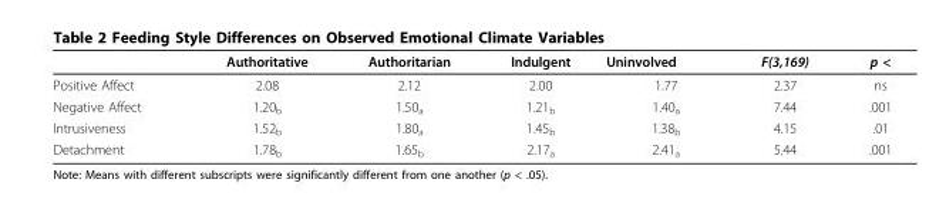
<table><thead><tr><td></td><td>Authoritative</td><td>Authoritarian</td><td>Indulgent</td><td>Uninvolved</td><td>F(3,169)</td><td>p &lt;</td></tr></thead><tbody><tr><td>Positive Affect</td><td>2.08</td><td>2.12</td><td>2.00</td><td>1.77</td><td>2.37</td><td>ns</td></tr><tr><td>Negative Affect</td><td>1.20<sub>b</sub></td><td>1.50<sub>a</sub></td><td>1.21<sub>b</sub></td><td>1.40<sub>a</sub></td><td>7.44</td><td>.001</td></tr><tr><td>Intrusiveness</td><td>1.52<sub>b</sub></td><td>1.80<sub>a</sub></td><td>1.45<sub>b</sub></td><td>1.38<sub>b</sub></td><td>4.15</td><td>.01</td></tr><tr><td>Detachment</td><td>1.78<sub>b</sub></td><td>1.65<sub>b</sub></td><td>2.17<sub>a</sub></td><td>2.41<sub>a</sub></td><td>5.44</td><td>.001</td></tr></tbody></table>